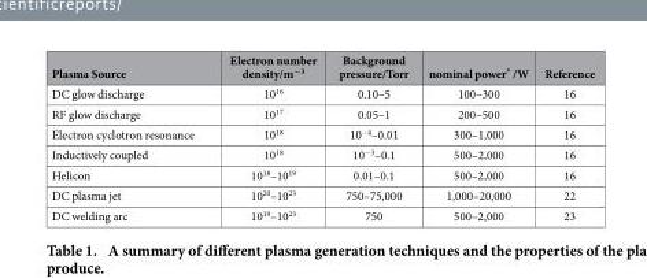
<table><thead><tr><td>Plasma Source</td><td>Electron number density/m<sup>−3</sup></td><td>Background pressure/Torr</td><td>nominal power* /W</td><td>Reference</td></tr></thead><tbody><tr><td>DC glow discharge</td><td>10<sup>16</sup></td><td>0.10–5</td><td>100–300</td><td>16</td></tr><tr><td>RF glow discharge</td><td>10<sup>17</sup></td><td>0.05–1</td><td>200–500</td><td>16</td></tr><tr><td>Electron cyclotron resonance</td><td>10<sup>18</sup></td><td>10<sup>−4</sup>–0.01</td><td>300–1,000</td><td>16</td></tr><tr><td>Inductively coupled</td><td>10<sup>18</sup></td><td>10<sup>−3</sup>–0.1</td><td>500–2,000</td><td>16</td></tr><tr><td>Helicon</td><td>10<sup>18</sup>–10<sup>19</sup></td><td>0.01–0.1</td><td>500–2,000</td><td>16</td></tr><tr><td>DC plasma jet</td><td>10<sup>20</sup>–10<sup>23</sup></td><td>750–75,000</td><td>1,000–20,000</td><td>22</td></tr><tr><td>DC welding arc</td><td>10<sup>19</sup>–10<sup>23</sup></td><td>750</td><td>500–2,000</td><td>23</td></tr></tbody></table>